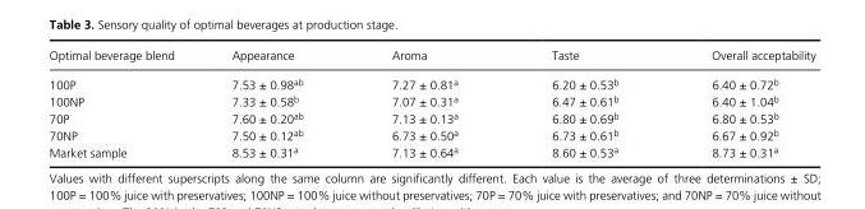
<table><thead><tr><td>Optimal beverage blend</td><td>Appearance</td><td>Aroma</td><td>Taste</td><td>Overall acceptability</td></tr></thead><tbody><tr><td>100P</td><td>7.53 ± 0.98<sup>ab</sup></td><td>7.27 ± 0.81<sup>a</sup></td><td>6.20 ± 0.53<sup>b</sup></td><td>6.40 ± 0.72<sup>b</sup></td></tr><tr><td>100NP</td><td>7.33 ± 0.58<sup>b</sup></td><td>7.07 ± 0.31<sup>a</sup></td><td>6.47 ± 0.61<sup>b</sup></td><td>6.40 ± 1.04<sup>b</sup></td></tr><tr><td>70P</td><td>7.60 ± 0.20<sup>ab</sup></td><td>7.13 ± 0.13<sup>a</sup></td><td>6.80 ± 0.69<sup>b</sup></td><td>6.80 ± 0.53<sup>b</sup></td></tr><tr><td>70NP</td><td>7.50 ± 0.12<sup>ab</sup></td><td>6.73 ± 0.50<sup>a</sup></td><td>6.73 ± 0.61<sup>b</sup></td><td>6.67 ± 0.92<sup>b</sup></td></tr><tr><td>Market sample</td><td>8.53 ± 0.31<sup>a</sup></td><td>7.13 ± 0.64<sup>a</sup></td><td>8.60 ± 0.53<sup>a</sup></td><td>8.73 ± 0.31<sup>a</sup></td></tr></tbody></table>